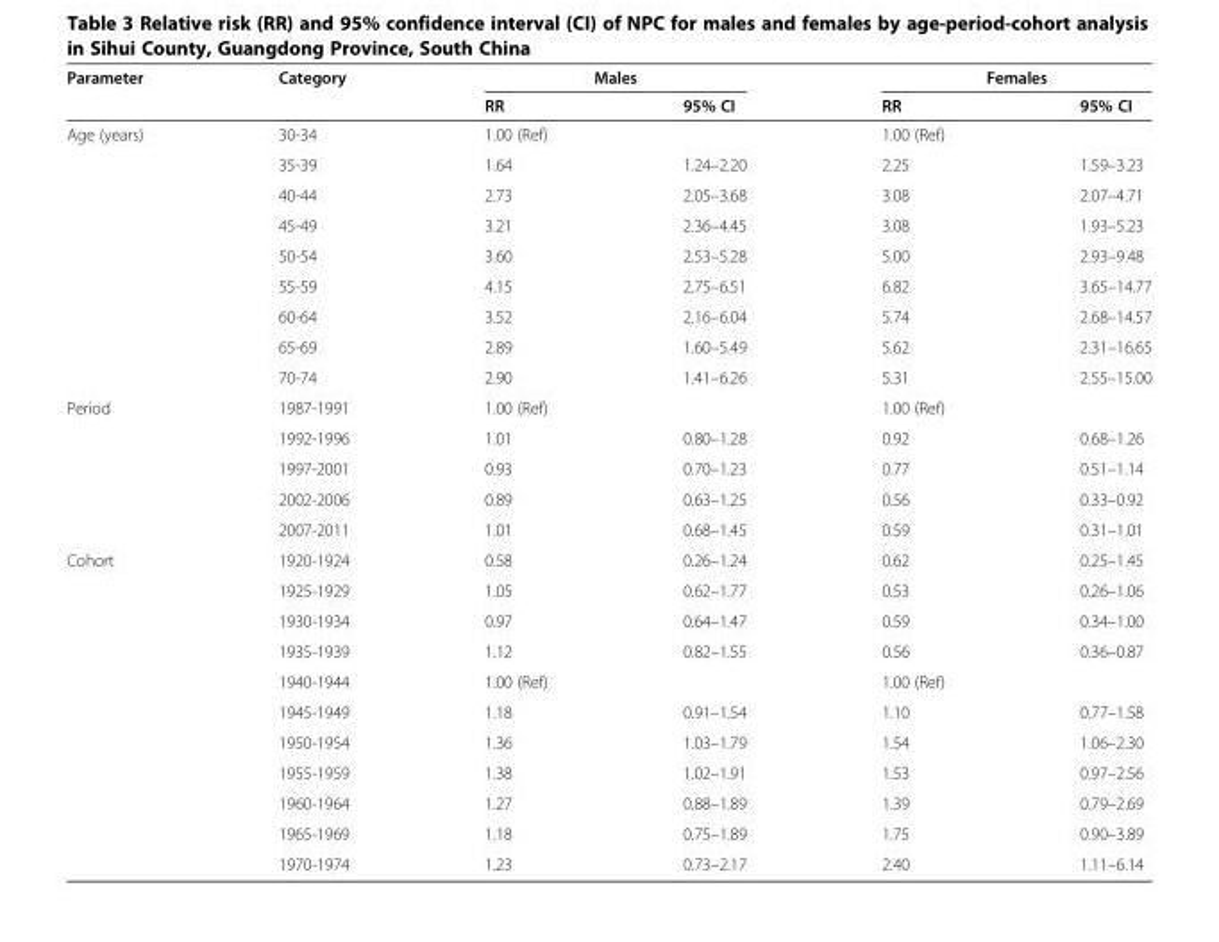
<table><thead><tr><td rowspan="2">Parameter</td><td rowspan="2">Category</td><td colspan="2">Males</td><td colspan="2">Females</td></tr><tr><td>RR</td><td>95% CI</td><td>RR</td><td>95% CI</td></tr></thead><tbody><tr><td rowspan="9">Age (years)</td><td>30-34</td><td>1.00 (Ref)</td><td></td><td>1.00 (Ref)</td><td></td></tr><tr><td>35-39</td><td>1.64</td><td>1.24–2.20</td><td>2.25</td><td>1.59–3.23</td></tr><tr><td>40-44</td><td>2.73</td><td>2.05–3.68</td><td>3.08</td><td>2.07–4.71</td></tr><tr><td>45-49</td><td>3.21</td><td>2.36–4.45</td><td>3.08</td><td>1.93–5.23</td></tr><tr><td>50-54</td><td>3.60</td><td>2.53–5.28</td><td>5.00</td><td>2.93–9.48</td></tr><tr><td>55-59</td><td>4.15</td><td>2.75–6.51</td><td>6.82</td><td>3.65–14.77</td></tr><tr><td>60-64</td><td>3.52</td><td>2.16–6.04</td><td>5.74</td><td>2.68–14.57</td></tr><tr><td>65-69</td><td>2.89</td><td>1.60–5.49</td><td>5.62</td><td>2.31–16.65</td></tr><tr><td>70-74</td><td>2.90</td><td>1.41–6.26</td><td>5.31</td><td>2.55–15.00</td></tr><tr><td rowspan="5">Period</td><td>1987-1991</td><td>1.00 (Ref)</td><td></td><td>1.00 (Ref)</td><td></td></tr><tr><td>1992-1996</td><td>1.01</td><td>0.80–1.28</td><td>0.92</td><td>0.68–1.26</td></tr><tr><td>1997-2001</td><td>0.93</td><td>0.70–1.23</td><td>0.77</td><td>0.51–1.14</td></tr><tr><td>2002-2006</td><td>0.89</td><td>0.63–1.25</td><td>0.56</td><td>0.33–0.92</td></tr><tr><td>2007-2011</td><td>1.01</td><td>0.68–1.45</td><td>0.59</td><td>0.31–1.01</td></tr><tr><td rowspan="11">Cohort</td><td>1920-1924</td><td>0.58</td><td>0.26–1.24</td><td>0.62</td><td>0.25–1.45</td></tr><tr><td>1925-1929</td><td>1.05</td><td>0.62–1.77</td><td>0.53</td><td>0.26–1.06</td></tr><tr><td>1930-1934</td><td>0.97</td><td>0.64–1.47</td><td>0.59</td><td>0.34–1.00</td></tr><tr><td>1935-1939</td><td>1.12</td><td>0.82–1.55</td><td>0.56</td><td>0.36–0.87</td></tr><tr><td>1940-1944</td><td>1.00 (Ref)</td><td></td><td>1.00 (Ref)</td><td></td></tr><tr><td>1945-1949</td><td>1.18</td><td>0.91–1.54</td><td>1.10</td><td>0.77–1.58</td></tr><tr><td>1950-1954</td><td>1.36</td><td>1.03–1.79</td><td>1.54</td><td>1.06–2.30</td></tr><tr><td>1955-1959</td><td>1.38</td><td>1.02–1.91</td><td>1.53</td><td>0.97–2.56</td></tr><tr><td>1960-1964</td><td>1.27</td><td>0.88–1.89</td><td>1.39</td><td>0.79–2.69</td></tr><tr><td>1965-1969</td><td>1.18</td><td>0.75–1.89</td><td>1.75</td><td>0.90–3.89</td></tr><tr><td>1970-1974</td><td>1.23</td><td>0.73–2.17</td><td>2.40</td><td>1.11–6.14</td></tr></tbody></table>